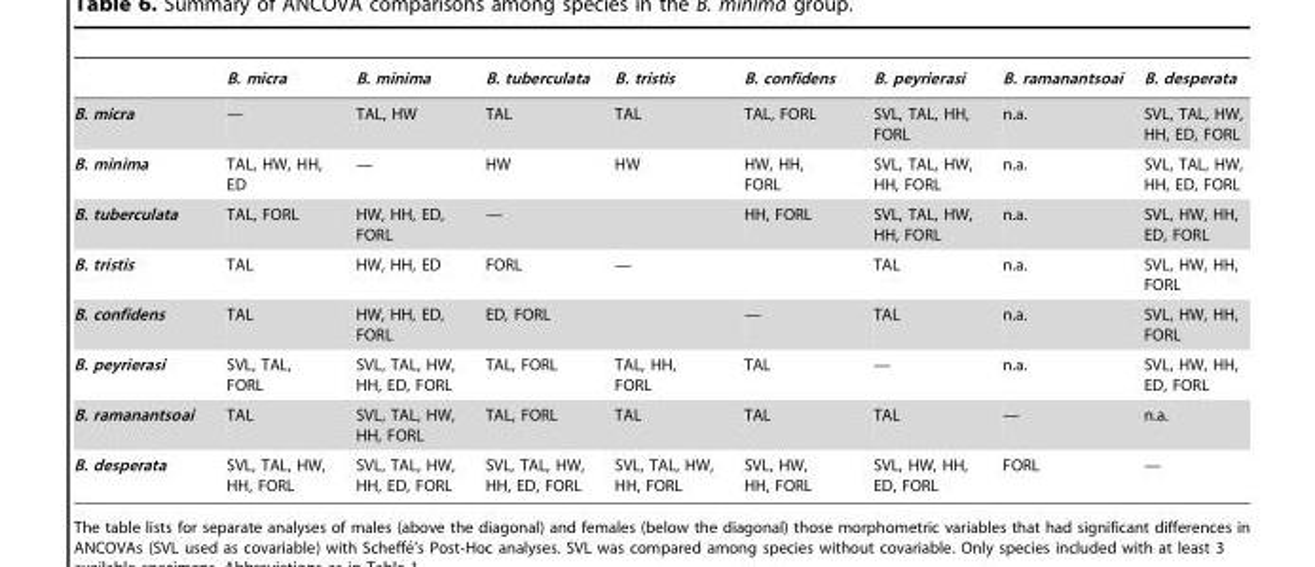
<table><thead><tr><td></td><td>B. micra</td><td>B. minima</td><td>B. tuberculata</td><td>B. tristis</td><td>B. confidens</td><td>B. peyrierasi</td><td>B. ramanantsoai</td><td>B. desperata</td></tr></thead><tbody><tr><td>B. micra</td><td>—</td><td>TAL, HW</td><td>TAL</td><td>TAL</td><td>TAL, FORL</td><td>SVL, TAL, HH, FORL</td><td>n.a.</td><td>SVL, TAL, HW, HH, ED, FORL</td></tr><tr><td>B. minima</td><td>TAL, HW, HH, ED</td><td>—</td><td>HW</td><td>HW</td><td>HW, HH, FORL</td><td>SVL, TAL, HW, HH, FORL</td><td>n.a.</td><td>SVL, TAL, HW, HH, ED, FORL</td></tr><tr><td>B. tuberculata</td><td>TAL, FORL</td><td>HW, HH, ED, FORL</td><td>—</td><td></td><td>HH, FORL</td><td>SVL, TAL, HW, HH, FORL</td><td>n.a.</td><td>SVL, HW, HH, ED, FORL</td></tr><tr><td>B. tristis</td><td>TAL</td><td>HW, HH, ED</td><td>FORL</td><td>—</td><td></td><td>TAL</td><td>n.a.</td><td>SVL, HW, HH, FORL</td></tr><tr><td>B. confidens</td><td>TAL</td><td>HW, HH, ED, FORL</td><td>ED, FORL</td><td></td><td>—</td><td>TAL</td><td>n.a.</td><td>SVL, HW, HH, FORL</td></tr><tr><td>B. peyrierasi</td><td>SVL, TAL, FORL</td><td>SVL, TAL, HW, HH, ED, FORL</td><td>TAL, FORL</td><td>TAL, HH, FORL</td><td>TAL</td><td>—</td><td>n.a.</td><td>SVL, HW, HH, ED, FORL</td></tr><tr><td>B. ramanantsoai</td><td>TAL</td><td>SVL, TAL, HW, HH, FORL</td><td>TAL, FORL</td><td>TAL</td><td>TAL</td><td>TAL</td><td>—</td><td>n.a.</td></tr><tr><td>B. desperata</td><td>SVL, TAL, HW, HH, FORL</td><td>SVL, TAL, HW, HH, ED, FORL</td><td>SVL, TAL, HW, HH, ED, FORL</td><td>SVL, TAL, HW, HH, FORL</td><td>SVL, HW, HH, FORL</td><td>SVL, HW, HH, ED, FORL</td><td>FORL</td><td>—</td></tr></tbody></table>